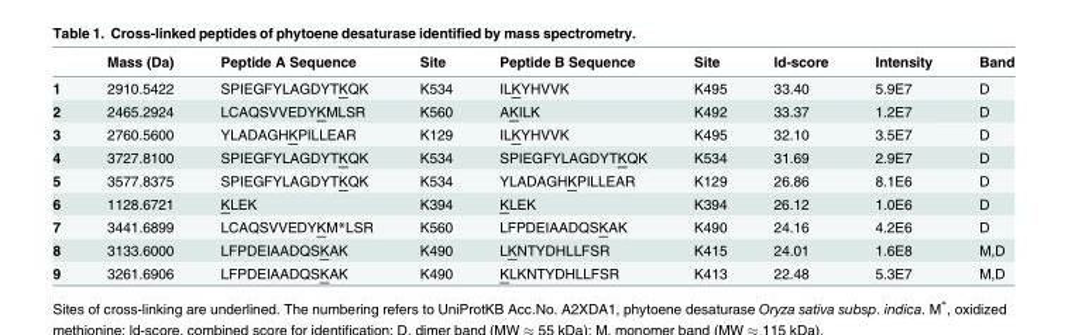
<table><thead><tr><td></td><td>Mass (Da)</td><td>Peptide A Sequence</td><td>Site</td><td>Peptide B Sequence</td><td>Site</td><td>ld-score</td><td>Intensity</td><td>Band</td></tr></thead><tbody><tr><td>1</td><td>2910.5422</td><td>SPIEGFYLAGDYTKQK</td><td>K534</td><td>ILKYHVVK</td><td>K495</td><td>33.40</td><td>5.9E7</td><td>D</td></tr><tr><td>2</td><td>2465.2924</td><td>LCAQSVVEDYKMLSR</td><td>K560</td><td>AKILK</td><td>K492</td><td>33.37</td><td>1.2E7</td><td>D</td></tr><tr><td>3</td><td>2760.5600</td><td>YLADAGHKPILLEAR</td><td>K129</td><td>ILKYHVVK</td><td>K495</td><td>32.10</td><td>3.5E7</td><td>D</td></tr><tr><td>4</td><td>3727.8100</td><td>SPIEGFYLAGDYTKQK</td><td>K534</td><td>SPIEGFYLAGDYTKQK</td><td>K534</td><td>31.69</td><td>2.9E7</td><td>D</td></tr><tr><td>5</td><td>3577.8375</td><td>SPIEGFYLAGDYTKQK</td><td>K534</td><td>YLADAGHKPILLEAR</td><td>K129</td><td>26.86</td><td>8.1E6</td><td>D</td></tr><tr><td>6</td><td>1128.6721</td><td>KLEK</td><td>K394</td><td>KLEK</td><td>K394</td><td>26.12</td><td>1.0E6</td><td>D</td></tr><tr><td>7</td><td>3441.6899</td><td>LCAQSVVEDYKM*LSR</td><td>K560</td><td>LFPDEIAADQSKAK</td><td>K490</td><td>24.16</td><td>4.2E6</td><td>D</td></tr><tr><td>8</td><td>3133.6000</td><td>LFPDEIAADQSKAK</td><td>K490</td><td>LKNTYDHLLFSR</td><td>K415</td><td>24.01</td><td>1.6E8</td><td>M,D</td></tr><tr><td>9</td><td>3261.6906</td><td>LFPDEIAADQSKAK</td><td>K490</td><td>KLKNTYDHLLFSR</td><td>K413</td><td>22.48</td><td>5.3E7</td><td>M,D</td></tr></tbody></table>